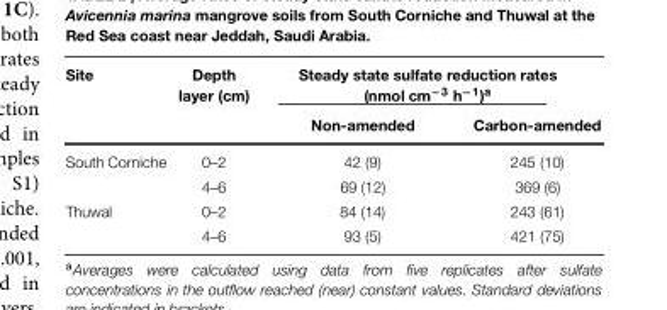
<table><thead><tr><td rowspan="2">Site</td><td rowspan="2">Depth layer (cm)</td><td colspan="2">Steady state sulfate reduction rates (nmol cm<sup>−3</sup> h<sup>−1</sup>)<sup>a</sup></td></tr><tr><td>Non-amended</td><td>Carbon-amended</td></tr></thead><tbody><tr><td rowspan="2">South Corniche</td><td>0–2</td><td>42 (9)</td><td>245 (10)</td></tr><tr><td>4–6</td><td>69 (12)</td><td>369 (6)</td></tr><tr><td rowspan="2">Thuwal</td><td>0–2</td><td>84 (14)</td><td>243 (61)</td></tr><tr><td>4–6</td><td>93 (5)</td><td>421 (75)</td></tr></tbody></table>